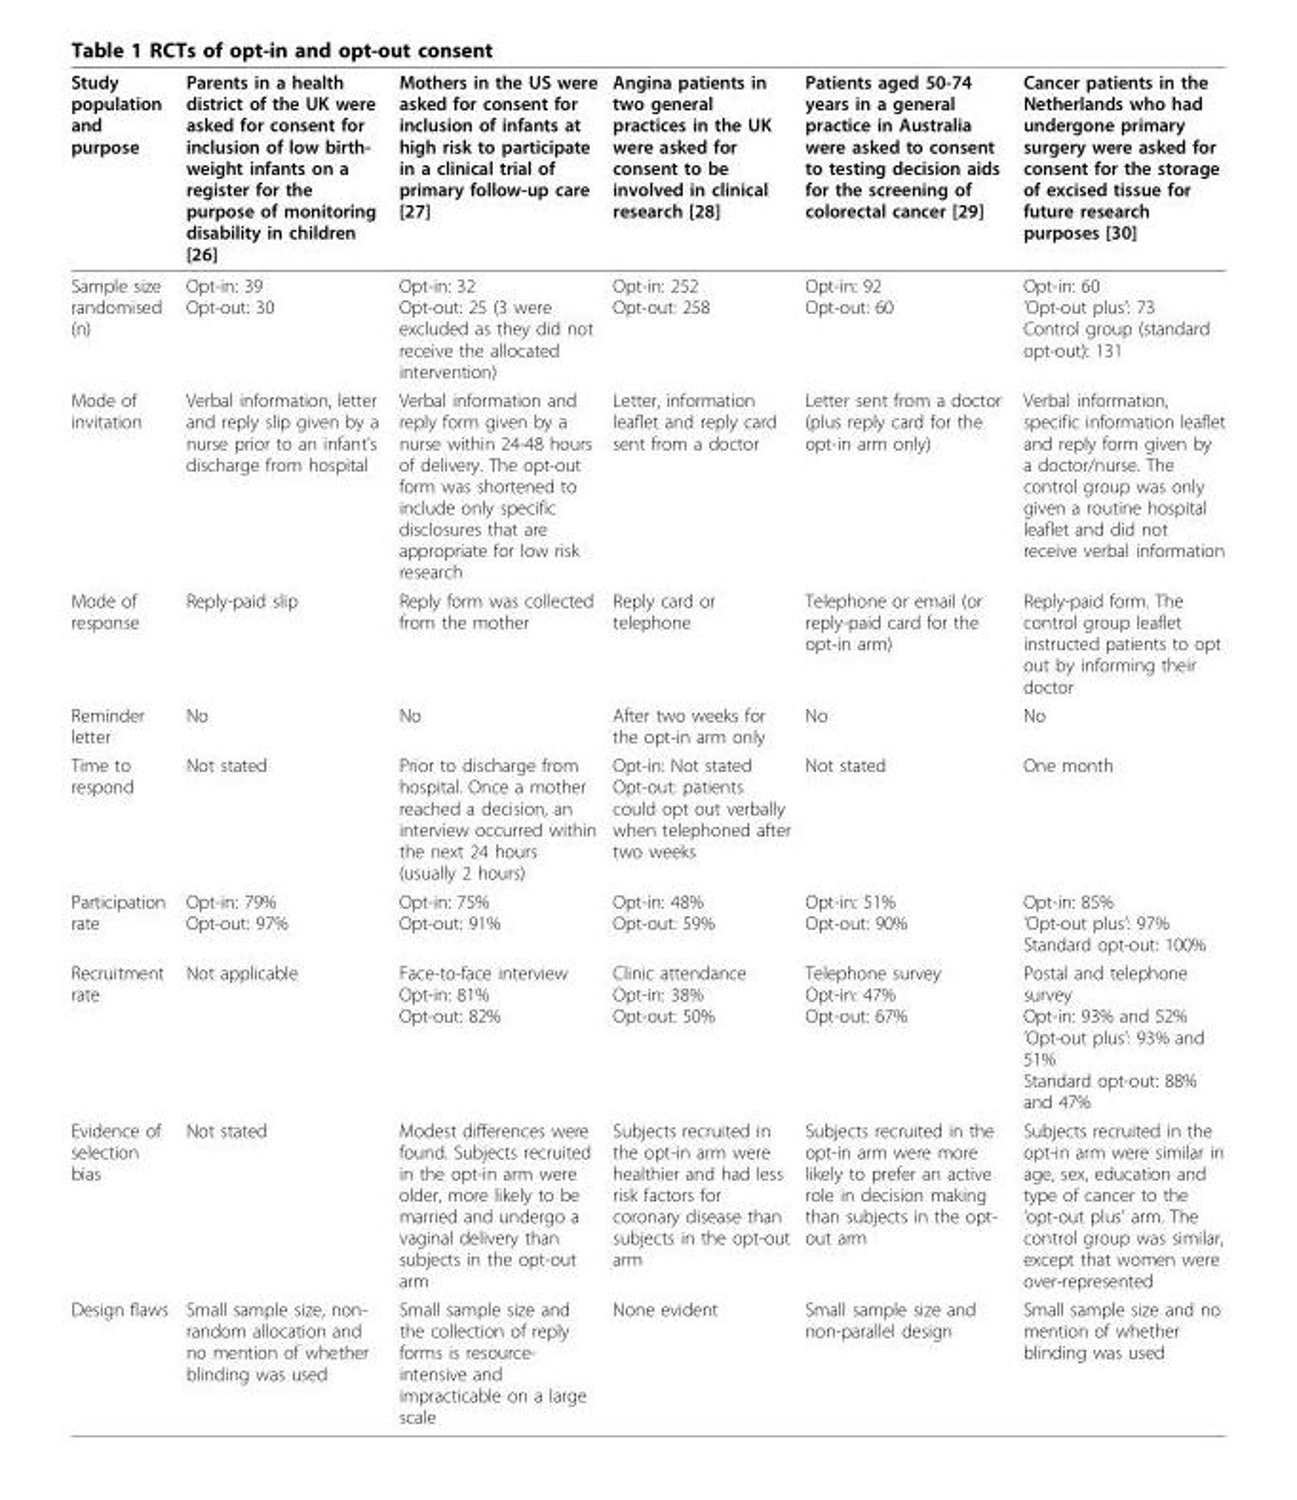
<table><thead><tr><td>Study population and purpose</td><td>Parents in a health district of the UK were asked for consent for inclusion of low birth- weight infants on a register for the purpose of monitoring disability in children [26]</td><td>Mothers in the US were asked for consent for inclusion of infants at high risk to participate in a clinical trial of primary follow-up care [27]</td><td>Angina patients in two general practices in the UK were asked for consent to be involved in clinical research [28]</td><td>Patients aged 50-74 years in a general practice in Australia were asked to consent to testing decision aids for the screening of colorectal cancer [29]</td><td>Cancer patients in the Netherlands who had undergone primary surgery were asked for consent for the storage of excised tissue for future research purposes [30]</td></tr></thead><tbody><tr><td>Sample size randomised (n)</td><td>Opt-in: 39 Opt-out: 30</td><td>Opt-in: 32 Opt-out: 25 (3 were excluded as they did not receive the allocated intervention)</td><td>Opt-in: 252 Opt-out: 258</td><td>Opt-in: 92 Opt-out: 60</td><td>Opt-in: 60 ’Opt-out plus’: 73 Control group (standard opt-out): 131</td></tr><tr><td>Mode of invitation</td><td>Verbal information, letter and reply slip given by a nurse prior to an infant’s discharge from hospital</td><td>Verbal information and reply form given by a nurse within 24-48 hours of delivery. The opt-out form was shortened to include only specific disclosures that are appropriate for low risk research</td><td>Letter, information leaflet and reply card sent from a doctor</td><td>Letter sent from a doctor (plus reply card for the opt-in arm only)</td><td>Verbal information, specific information leaflet and reply form given by a doctor/nurse. The control group was only given a routine hospital leaflet and did not receive verbal information</td></tr><tr><td>Mode of response</td><td>Reply-paid slip</td><td>Reply form was collected from the mother</td><td>Reply card or telephone</td><td>Telephone or email (or reply-paid card for the opt-in arm)</td><td>Reply-paid form. The control group leaflet instructed patients to opt out by informing their doctor</td></tr><tr><td>Reminder letter</td><td>No</td><td>No</td><td>After two weeks for the opt-in arm only</td><td>No</td><td>No</td></tr><tr><td>Time to respond</td><td>Not stated</td><td>Prior to discharge from hospital. Once a mother reached a decision, an interview occurred within the next 24 hours (usually 2 hours)</td><td>Opt-in: Not stated Opt-out: patients could opt out verbally when telephoned after two weeks</td><td>Not stated</td><td>One month</td></tr><tr><td>Participation rate</td><td>Opt-in: 79% Opt-out: 97%</td><td>Opt-in: 75% Opt-out: 91%</td><td>Opt-in: 48% Opt-out: 59%</td><td>Opt-in: 51% Opt-out: 90%</td><td>Opt-in: 85% ’Opt-out plus’: 97% Standard opt-out: 100%</td></tr><tr><td>Recruitment rate</td><td>Not applicable</td><td>Face-to-face interview Opt-in: 81% Opt-out: 82%</td><td>Clinic attendance Opt-in: 38% Opt-out: 50%</td><td>Telephone survey Opt-in: 47% Opt-out: 67%</td><td>Postal and telephone survey Opt-in: 93% and 52% ’Opt-out plus’: 93% and 51% Standard opt-out: 88% and 47%</td></tr><tr><td>Evidence of selection bias</td><td>Not stated</td><td>Modest differences were found. Subjects recruited in the opt-in arm were older, more likely to be married and undergo a vaginal delivery than subjects in the opt-out arm</td><td>Subjects recruited in the opt-in arm were healthier and had less risk factors for coronary disease than subjects in the opt-out arm</td><td>Subjects recruited in the opt-in arm were more likely to prefer an active role in decision making than subjects in the opt- out arm</td><td>Subjects recruited in the opt-in arm were similar in age, sex, education and type of cancer to the ‘opt-out plus’ arm. The control group was similar, except that women were over-represented</td></tr><tr><td>Design flaws</td><td>Small sample size, non- random allocation and no mention of whether blinding was used</td><td>Small sample size and the collection of reply forms is resource- intensive and impracticable on a large scale</td><td>None evident</td><td>Small sample size and non-parallel design</td><td>Small sample size and no mention of whether blinding was used</td></tr></tbody></table>